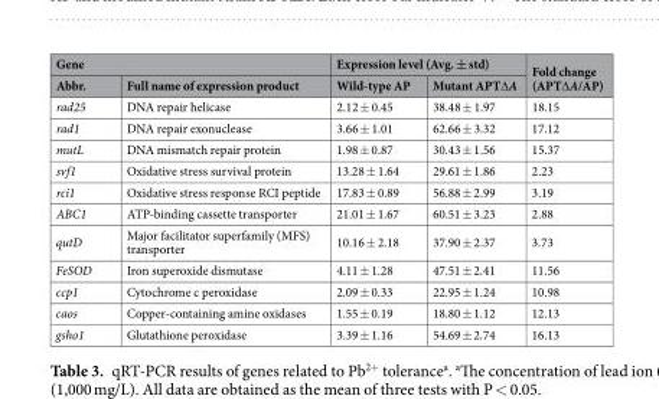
<table><thead><tr><td colspan="2">Gene</td><td colspan="2">Expression level (Avg. ± std)</td><td rowspan="2">Fold change (APT∆A/AP)</td></tr><tr><td>Abbr.</td><td>Full name of expression product</td><td>Wild-type AP</td><td>Mutant APT∆A</td></tr></thead><tbody><tr><td>rad25</td><td>DNA repair helicase</td><td>2.12 ± 0.45</td><td>38.48 ± 1.97</td><td>18.15</td></tr><tr><td>rad1</td><td>DNA repair exonuclease</td><td>3.66 ± 1.01</td><td>62.66 ± 3.32</td><td>17.12</td></tr><tr><td>mutL</td><td>DNA mismatch repair protein</td><td>1.98 ± 0.87</td><td>30.43 ± 1.56</td><td>15.37</td></tr><tr><td>svf1</td><td>Oxidative stress survival protein</td><td>13.28 ± 1.64</td><td>29.61 ± 1.86</td><td>2.23</td></tr><tr><td>rci1</td><td>Oxidative stress response RCI peptide</td><td>17.83 ± 0.89</td><td>56.88 ± 2.99</td><td>3.19</td></tr><tr><td>ABC1</td><td>ATP-binding cassette transporter</td><td>21.01 ± 1.67</td><td>60.51 ± 3.23</td><td>2.88</td></tr><tr><td>qutD</td><td>Major facilitator superfamily (MFS) transporter</td><td>10.16 ± 2.18</td><td>37.90 ± 2.37</td><td>3.73</td></tr><tr><td>FeSOD</td><td>Iron superoxide dismutase</td><td>4.11 ± 1.28</td><td>47.51 ± 2.41</td><td>11.56</td></tr><tr><td>ccp1</td><td>Cytochrome c peroxidase</td><td>2.09 ± 0.33</td><td>22.95 ± 1.24</td><td>10.98</td></tr><tr><td>caos</td><td>Copper-containing amine oxidases</td><td>1.55 ± 0.19</td><td>18.80 ± 1.12</td><td>12.13</td></tr><tr><td>gsho1</td><td>Glutathione peroxidase</td><td>3.39 ± 1.16</td><td>54.69 ± 2.74</td><td>16.13</td></tr></tbody></table>